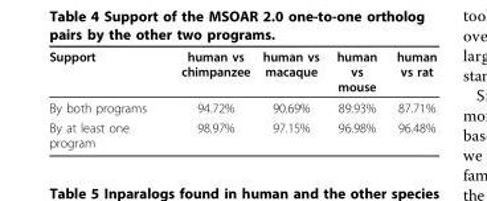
<table><thead><tr><td>Support</td><td>human vs chimpanzee</td><td>human vs macaque</td><td>human vs mouse</td><td>human vs rat</td></tr></thead><tbody><tr><td>By both programs</td><td>94.72%</td><td>90.69%</td><td>89.93%</td><td>87.71%</td></tr><tr><td>By at least one program</td><td>98.97%</td><td>97.15%</td><td>96.98%</td><td>96.48%</td></tr></tbody></table>